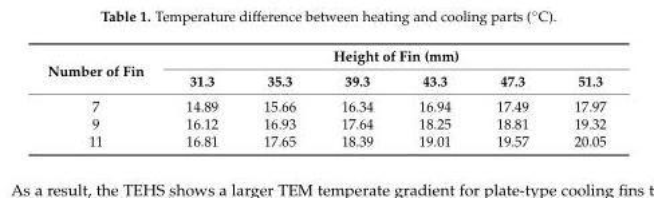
<table><thead><tr><td rowspan="2">Number of Fin</td><td colspan="6">Height of Fin (mm)</td></tr><tr><td>31.3</td><td>35.3</td><td>39.3</td><td>43.3</td><td>47.3</td><td>51.3</td></tr></thead><tbody><tr><td>7</td><td>14.89</td><td>15.66</td><td>16.34</td><td>16.94</td><td>17.49</td><td>17.97</td></tr><tr><td>9</td><td>16.12</td><td>16.93</td><td>17.64</td><td>18.25</td><td>18.81</td><td>19.32</td></tr><tr><td>11</td><td>16.81</td><td>17.65</td><td>18.39</td><td>19.01</td><td>19.57</td><td>20.05</td></tr></tbody></table>